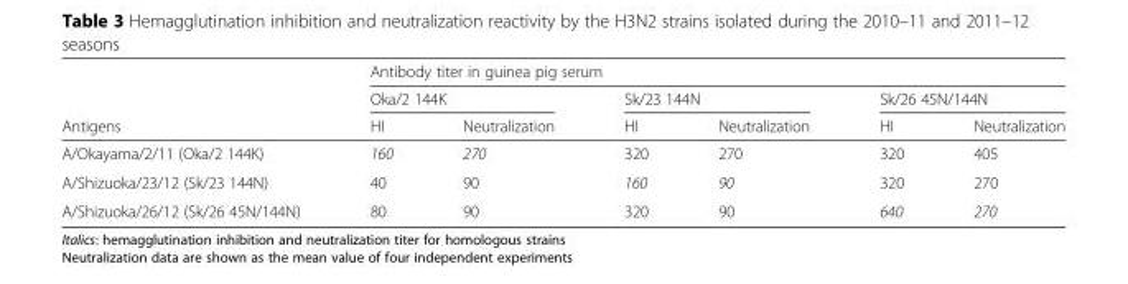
<table><thead><tr><td rowspan="3">Antigens</td><td colspan="6">Antibody titer in guinea pig serum</td></tr><tr><td colspan="2">Oka/2 144K</td><td colspan="2">Sk/23 144N</td><td colspan="2">Sk/26 45N/144N</td></tr><tr><td>HI</td><td>Neutralization</td><td>HI</td><td>Neutralization</td><td>HI</td><td>Neutralization</td></tr></thead><tbody><tr><td>A/Okayama/2/11 (Oka/2 144K)</td><td>160</td><td>270</td><td>320</td><td>270</td><td>320</td><td>405</td></tr><tr><td>A/Shizuoka/23/12 (Sk/23 144N)</td><td>40</td><td>90</td><td>160</td><td>90</td><td>320</td><td>270</td></tr><tr><td>A/Shizuoka/26/12 (Sk/26 45N/144N)</td><td>80</td><td>90</td><td>320</td><td>90</td><td>640</td><td>270</td></tr></tbody></table>